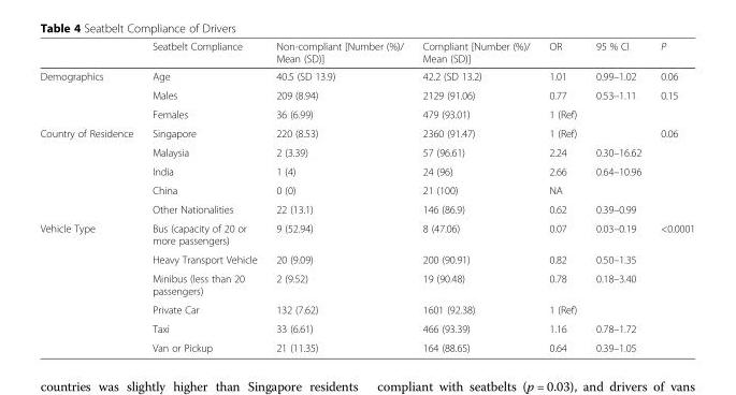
<table><thead><tr><td></td><td>Seatbelt Compliance</td><td>Non-compliant [Number (%)/ Mean (SD)]</td><td>Compliant [Number (%)/ Mean (SD)]</td><td>OR</td><td>95 % CI</td><td>P</td></tr></thead><tbody><tr><td rowspan="3">Demographics</td><td>Age</td><td>40.5 (SD 13.9)</td><td>42.2 (SD 13.2)</td><td>1.01</td><td>0.99–1.02</td><td>0.06</td></tr><tr><td>Males</td><td>209 (8.94)</td><td>2129 (91.06)</td><td>0.77</td><td>0.53–1.11</td><td rowspan="2">0.15</td></tr><tr><td>Females</td><td>36 (6.99)</td><td>479 (93.01)</td><td>1 (Ref)</td><td></td></tr><tr><td rowspan="5">Country of Residence</td><td>Singapore</td><td>220 (8.53)</td><td>2360 (91.47)</td><td>1 (Ref)</td><td></td><td rowspan="5">0.06</td></tr><tr><td>Malaysia</td><td>2 (3.39)</td><td>57 (96.61)</td><td>2.24</td><td>0.30–16.62</td></tr><tr><td>India</td><td>1 (4)</td><td>24 (96)</td><td>2.66</td><td>0.64–10.96</td></tr><tr><td>China</td><td>0 (0)</td><td>21 (100)</td><td>NA</td><td></td></tr><tr><td>Other Nationalities</td><td>22 (13.1)</td><td>146 (86.9)</td><td>0.62</td><td>0.39–0.99</td></tr><tr><td rowspan="6">Vehicle Type</td><td>Bus (capacity of 20 or more passengers)</td><td>9 (52.94)</td><td>8 (47.06)</td><td>0.07</td><td>0.03–0.19</td><td rowspan="6">&lt;0.0001</td></tr><tr><td>Heavy Transport Vehicle</td><td>20 (9.09)</td><td>200 (90.91)</td><td>0.82</td><td>0.50–1.35</td></tr><tr><td>Minibus (less than 20 passengers)</td><td>2 (9.52)</td><td>19 (90.48)</td><td>0.78</td><td>0.18–3.40</td></tr><tr><td>Private Car</td><td>132 (7.62)</td><td>1601 (92.38)</td><td>1 (Ref)</td><td></td></tr><tr><td>Taxi</td><td>33 (6.61)</td><td>466 (93.39)</td><td>1.16</td><td>0.78–1.72</td></tr><tr><td>Van or Pickup</td><td>21 (11.35)</td><td>164 (88.65)</td><td>0.64</td><td>0.39–1.05</td></tr></tbody></table>